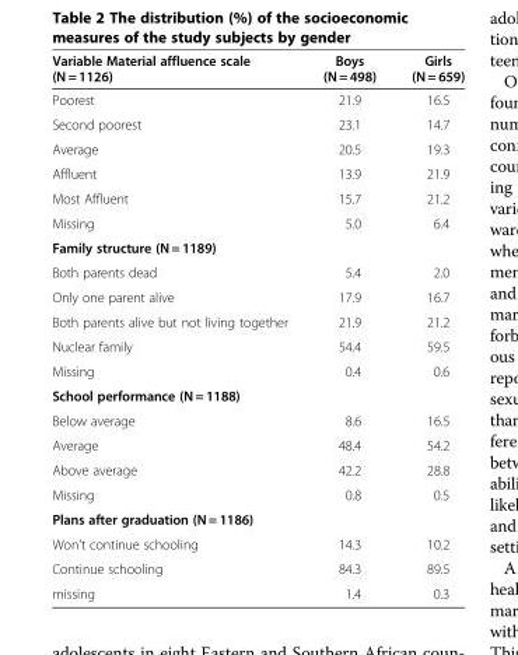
<table><thead><tr><td>Variable Material affluence scale (N = 1126)</td><td>Boys (N = 498)</td><td>Girls (N = 659)</td></tr></thead><tbody><tr><td>Poorest</td><td>21.9</td><td>16.5</td></tr><tr><td>Second poorest</td><td>23.1</td><td>14.7</td></tr><tr><td>Average</td><td>20.5</td><td>19.3</td></tr><tr><td>Affluent</td><td>13.9</td><td>21.9</td></tr><tr><td>Most Affluent</td><td>15.7</td><td>21.2</td></tr><tr><td>Missing</td><td>5.0</td><td>6.4</td></tr><tr><td colspan="3">Family structure (N = 1189)</td></tr><tr><td>Both parents dead</td><td>5.4</td><td>2.0</td></tr><tr><td>Only one parent alive</td><td>17.9</td><td>16.7</td></tr><tr><td>Both parents alive but not living together</td><td>21.9</td><td>21.2</td></tr><tr><td>Nuclear family</td><td>54.4</td><td>59.5</td></tr><tr><td>Missing</td><td>0.4</td><td>0.6</td></tr><tr><td colspan="3">School performance (N = 1188)</td></tr><tr><td>Below average</td><td>8.6</td><td>16.5</td></tr><tr><td>Average</td><td>48.4</td><td>54.2</td></tr><tr><td>Above average</td><td>42.2</td><td>28.8</td></tr><tr><td>Missing</td><td>0.8</td><td>0.5</td></tr><tr><td colspan="3">Plans after graduation (N = 1186)</td></tr><tr><td>Won’t continue schooling</td><td>14.3</td><td>10.2</td></tr><tr><td>Continue schooling</td><td>84.3</td><td>89.5</td></tr><tr><td>missing</td><td>1.4</td><td>0.3</td></tr></tbody></table>